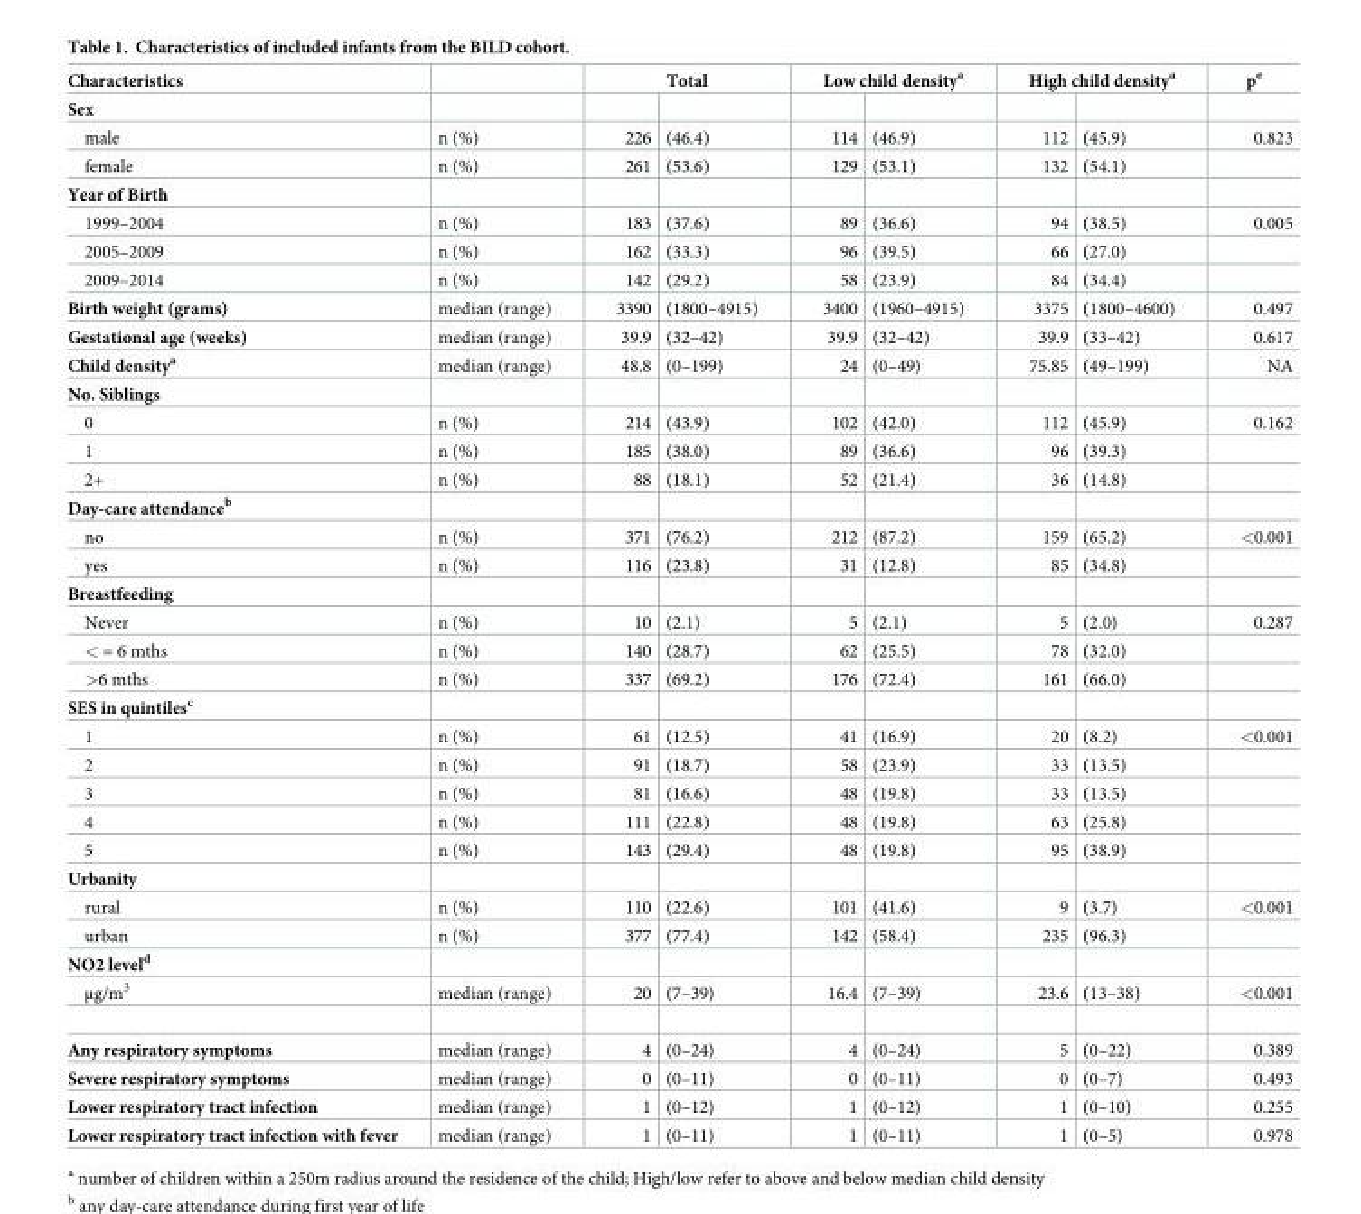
<table><thead><tr><td rowspan="2">Characteristics Sex</td><td rowspan="2"></td><td colspan="2">Total</td><td colspan="2">Low child density<sup>a</sup></td><td colspan="2">High child density<sup>a</sup></td><td rowspan="2">p<sup>e</sup></td></tr><tr><td></td><td></td><td></td><td></td><td></td><td></td></tr></thead><tbody><tr><td>male</td><td>n (%)</td><td>226</td><td>(46.4)</td><td>114</td><td>(46.9)</td><td>112</td><td>(45.9)</td><td>0.823</td></tr><tr><td>female</td><td>n (%)</td><td>261</td><td>(53.6)</td><td>129</td><td>(53.1)</td><td>132</td><td>(54.1)</td><td></td></tr><tr><td colspan="9">Year of Birth</td></tr><tr><td>1999–2004</td><td>n (%)</td><td>183</td><td>(37.6)</td><td>89</td><td>(36.6)</td><td>94</td><td>(38.5)</td><td>0.005</td></tr><tr><td>2005–2009</td><td>n (%)</td><td>162</td><td>(33.3)</td><td>96</td><td>(39.5)</td><td>66</td><td>(27.0)</td><td></td></tr><tr><td>2009–2014</td><td>n (%)</td><td>142</td><td>(29.2)</td><td>58</td><td>(23.9)</td><td>84</td><td>(34.4)</td><td></td></tr><tr><td>Birth weight (grams)</td><td>median (range)</td><td>3390</td><td>(1800–4915)</td><td>3400</td><td>(1960–4915)</td><td>3375</td><td>(1800–4600)</td><td>0.497</td></tr><tr><td>Gestational age (weeks)</td><td>median (range)</td><td>39.9</td><td>(32–42)</td><td>39.9</td><td>(32–42)</td><td>39.9</td><td>(33–42)</td><td>0.617</td></tr><tr><td>Child density<sup>a</sup></td><td>median (range)</td><td>48.8</td><td>(0–199)</td><td>24</td><td>(0–49)</td><td>75.85</td><td>(49–199)</td><td>NA</td></tr><tr><td colspan="9">No. Siblings</td></tr><tr><td>0</td><td>n (%)</td><td>214</td><td>(43.9)</td><td>102</td><td>(42.0)</td><td>112</td><td>(45.9)</td><td>0.162</td></tr><tr><td>1</td><td>n (%)</td><td>185</td><td>(38.0)</td><td>89</td><td>(36.6)</td><td>96</td><td>(39.3)</td><td></td></tr><tr><td>2+</td><td>n (%)</td><td>88</td><td>(18.1)</td><td>52</td><td>(21.4)</td><td>36</td><td>(14.8)</td><td></td></tr><tr><td colspan="9">Day-care attendance<sup>b</sup></td></tr><tr><td>no</td><td>n (%)</td><td>371</td><td>(76.2)</td><td>212</td><td>(87.2)</td><td>159</td><td>(65.2)</td><td>&lt;0.001</td></tr><tr><td>yes</td><td>n (%)</td><td>116</td><td>(23.8)</td><td>31</td><td>(12.8)</td><td>85</td><td>(34.8)</td><td></td></tr><tr><td colspan="9">Breastfeeding</td></tr><tr><td>Never</td><td>n (%)</td><td>10</td><td>(2.1)</td><td>5</td><td>(2.1)</td><td>5</td><td>(2.0)</td><td>0.287</td></tr><tr><td>&lt; = 6 mths</td><td>n (%)</td><td>140</td><td>(28.7)</td><td>62</td><td>(25.5)</td><td>78</td><td>(32.0)</td><td></td></tr><tr><td>&gt;6 mths</td><td>n (%)</td><td>337</td><td>(69.2)</td><td>176</td><td>(72.4)</td><td>161</td><td>(66.0)</td><td></td></tr><tr><td colspan="9">SES in quintiles<sup>c</sup></td></tr><tr><td>1</td><td>n (%)</td><td>61</td><td>(12.5)</td><td>41</td><td>(16.9)</td><td>20</td><td>(8.2)</td><td>&lt;0.001</td></tr><tr><td>2</td><td>n (%)</td><td>91</td><td>(18.7)</td><td>58</td><td>(23.9)</td><td>33</td><td>(13.5)</td><td></td></tr><tr><td>3</td><td>n (%)</td><td>81</td><td>(16.6)</td><td>48</td><td>(19.8)</td><td>33</td><td>(13.5)</td><td></td></tr><tr><td>4</td><td>n (%)</td><td>111</td><td>(22.8)</td><td>48</td><td>(19.8)</td><td>63</td><td>(25.8)</td><td></td></tr><tr><td>5</td><td>n (%)</td><td>143</td><td>(29.4)</td><td>48</td><td>(19.8)</td><td>95</td><td>(38.9)</td><td></td></tr><tr><td colspan="9">Urbanity</td></tr><tr><td>rural</td><td>n (%)</td><td>110</td><td>(22.6)</td><td>101</td><td>(41.6)</td><td>9</td><td>(3.7)</td><td>&lt;0.001</td></tr><tr><td>urban</td><td>n (%)</td><td>377</td><td>(77.4)</td><td>142</td><td>(58.4)</td><td>235</td><td>(96.3)</td><td></td></tr><tr><td colspan="9">NO2 level<sup>d</sup></td></tr><tr><td>μg/m<sup>3</sup></td><td>median (range)</td><td>20</td><td>(7–39)</td><td>16.4</td><td>(7–39)</td><td>23.6</td><td>(13–38)</td><td>&lt;0.001</td></tr><tr><td>Any respiratory symptoms</td><td>median (range)</td><td>4</td><td>(0–24)</td><td>4</td><td>(0–24)</td><td>5</td><td>(0–22)</td><td>0.389</td></tr><tr><td>Severe respiratory symptoms</td><td>median (range)</td><td>0</td><td>(0–11)</td><td>0</td><td>(0–11)</td><td>0</td><td>(0–7)</td><td>0.493</td></tr><tr><td>Lower respiratory tract infection</td><td>median (range)</td><td>1</td><td>(0–12)</td><td>1</td><td>(0–12)</td><td>1</td><td>(0–10)</td><td>0.255</td></tr><tr><td>Lower respiratory tract infection with fever</td><td>median (range)</td><td>1</td><td>(0–11)</td><td>1</td><td>(0–11)</td><td>1</td><td>(0–5)</td><td>0.978</td></tr></tbody></table>